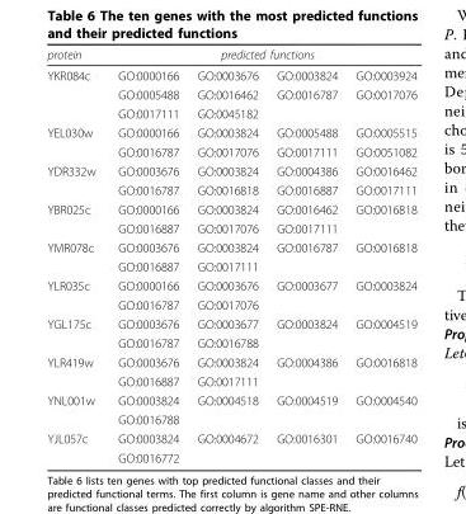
<table><thead><tr><td rowspan="2">protein YKR084c</td><td colspan="4">predicted functions</td></tr><tr><td>GO:0000166</td><td>GO:0003676</td><td>GO:0003824</td><td>GO:0003924</td></tr></thead><tbody><tr><td></td><td>GO:0005488</td><td>GO:0016462</td><td>GO:0016787</td><td>GO:0017076</td></tr><tr><td></td><td>GO:0017111</td><td>GO:0045182</td><td></td><td></td></tr><tr><td rowspan="2">YEL030w</td><td>GO:0000166</td><td>GO:0003824</td><td>GO:0005488</td><td>GO:0005515</td></tr><tr><td>GO:0016787</td><td>GO:0017076</td><td>GO:0017111</td><td>GO:0051082</td></tr><tr><td rowspan="2">YDR332w</td><td>GO:0003676</td><td>GO:0003824</td><td>GO:0004386</td><td>GO:0016462</td></tr><tr><td>GO:0016787</td><td>GO:0016818</td><td>GO:0016887</td><td>GO:0017111</td></tr><tr><td rowspan="2">YBR025c</td><td>GO:0000166</td><td>GO:0003824</td><td>GO:0016462</td><td>GO:0016818</td></tr><tr><td>GO:0016887</td><td>GO:0017076</td><td>GO:0017111</td><td></td></tr><tr><td rowspan="2">YMR078c</td><td>GO:0003676</td><td>GO:0003824</td><td>GO:0016787</td><td>GO:0016818</td></tr><tr><td>GO:0016887</td><td>GO:0017111</td><td></td><td></td></tr><tr><td rowspan="2">YLR035c</td><td>GO:0000166</td><td>GO:0003676</td><td>GO:0003677</td><td>GO:0003824</td></tr><tr><td>GO:0016787</td><td>GO:0017076</td><td></td><td></td></tr><tr><td rowspan="2">YGL175c</td><td>GO:0003676</td><td>GO:0003677</td><td>GO:0003824</td><td>GO:0004519</td></tr><tr><td>GO:0016787</td><td>GO:0016788</td><td></td><td></td></tr><tr><td rowspan="2">YLR419w</td><td>GO:0003676</td><td>GO:0003824</td><td>GO:0004386</td><td>GO:0016818</td></tr><tr><td>GO:0016887</td><td>GO:0017111</td><td></td><td></td></tr><tr><td rowspan="2">YNL001w</td><td>GO:0003824</td><td>GO:0004518</td><td>GO:0004519</td><td>GO:0004540</td></tr><tr><td>GO:0016788</td><td></td><td></td><td></td></tr><tr><td rowspan="2">YJL057c</td><td>GO:0003824</td><td>GO:0004672</td><td>GO:0016301</td><td>GO:0016740</td></tr><tr><td>GO:0016772</td><td></td><td></td><td></td></tr></tbody></table>